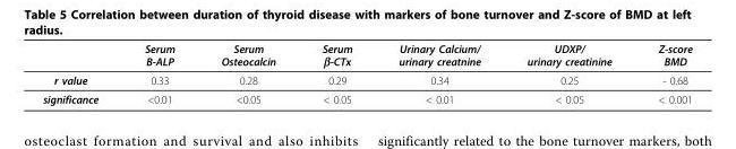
<table><thead><tr><td></td><td>Serum B-ALP</td><td>Serum Osteocalcin</td><td>Serum β-CTx</td><td>Urinary Calcium/ urinary creatnine</td><td>UDXP/ urinary creatinine</td><td>Z-score BMD</td></tr></thead><tbody><tr><td>r value</td><td>0.33</td><td>0.28</td><td>0.29</td><td>0.34</td><td>0.25</td><td>- 0.68</td></tr><tr><td>significance</td><td>&lt;0.01</td><td>&lt;0.05</td><td>&lt; 0.05</td><td>&lt; 0.01</td><td>&lt; 0.05</td><td>&lt; 0.001</td></tr></tbody></table>